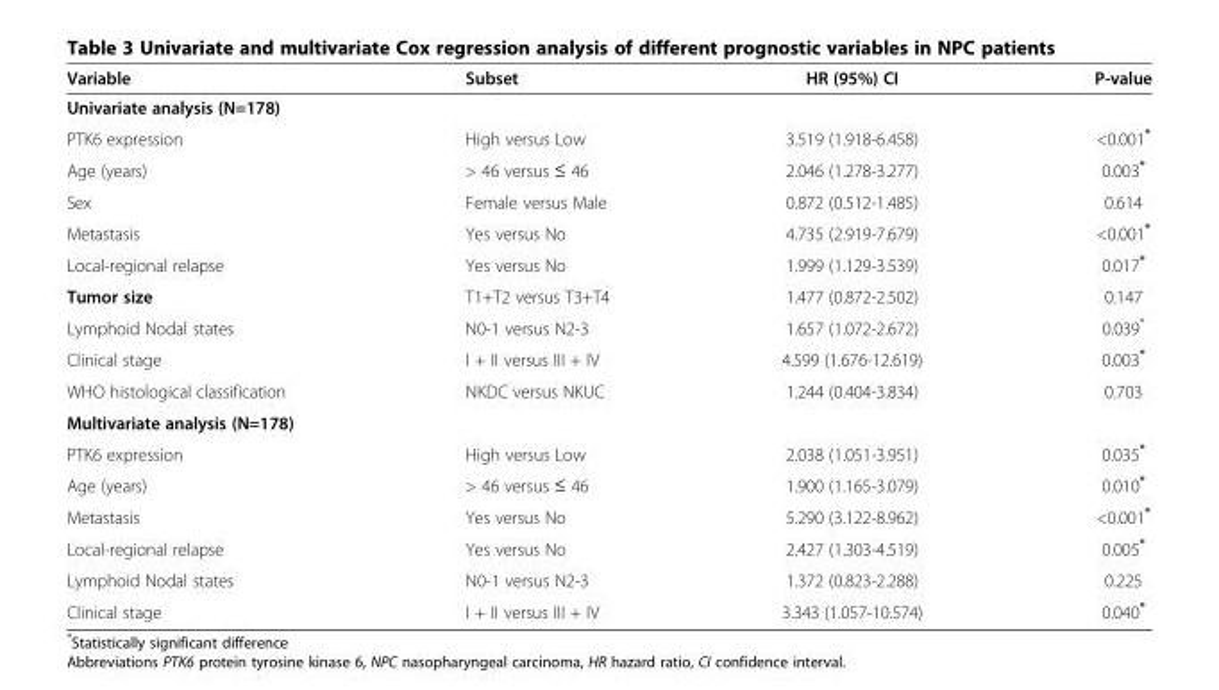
<table><thead><tr><td>Variable</td><td>Subset</td><td>HR (95%) CI</td><td>P-value</td></tr></thead><tbody><tr><td colspan="4">Univariate analysis (N=178)</td></tr><tr><td>PTK6 expression</td><td>High versus Low</td><td>3.519 (1.918-6.458)</td><td>&lt;0.001*</td></tr><tr><td>Age (years)</td><td>&gt; 46 versus ≤ 46</td><td>2.046 (1.278-3.277)</td><td>0.003*</td></tr><tr><td>Sex</td><td>Female versus Male</td><td>0.872 (0.512-1.485)</td><td>0.614</td></tr><tr><td>Metastasis</td><td>Yes versus No</td><td>4.735 (2.919-7.679)</td><td>&lt;0.001*</td></tr><tr><td>Local-regional relapse</td><td>Yes versus No</td><td>1.999 (1.129-3.539)</td><td>0.017*</td></tr><tr><td>Tumor size</td><td>T1+T2 versus T3+T4</td><td>1.477 (0.872-2.502)</td><td>0.147</td></tr><tr><td>Lymphoid Nodal states</td><td>N0-1 versus N2-3</td><td>1.657 (1.072-2.672)</td><td>0.039*</td></tr><tr><td>Clinical stage</td><td>I + II versus III + IV</td><td>4.599 (1.676-12.619)</td><td>0.003*</td></tr><tr><td>WHO histological classification</td><td>NKDC versus NKUC</td><td>1.244 (0.404-3.834)</td><td>0.703</td></tr><tr><td colspan="4">Multivariate analysis (N=178)</td></tr><tr><td>PTK6 expression</td><td>High versus Low</td><td>2.038 (1.051-3.951)</td><td>0.035*</td></tr><tr><td>Age (years)</td><td>&gt; 46 versus ≤ 46</td><td>1.900 (1.165-3.079)</td><td>0.010*</td></tr><tr><td>Metastasis</td><td>Yes versus No</td><td>5.290 (3.122-8.962)</td><td>&lt;0.001*</td></tr><tr><td>Local-regional relapse</td><td>Yes versus No</td><td>2.427 (1.303-4.519)</td><td>0.005*</td></tr><tr><td>Lymphoid Nodal states</td><td>N0-1 versus N2-3</td><td>1.372 (0.823-2.288)</td><td>0.225</td></tr><tr><td>Clinical stage</td><td>I + II versus III + IV</td><td>3.343 (1.057-10.574)</td><td>0.040*</td></tr></tbody></table>